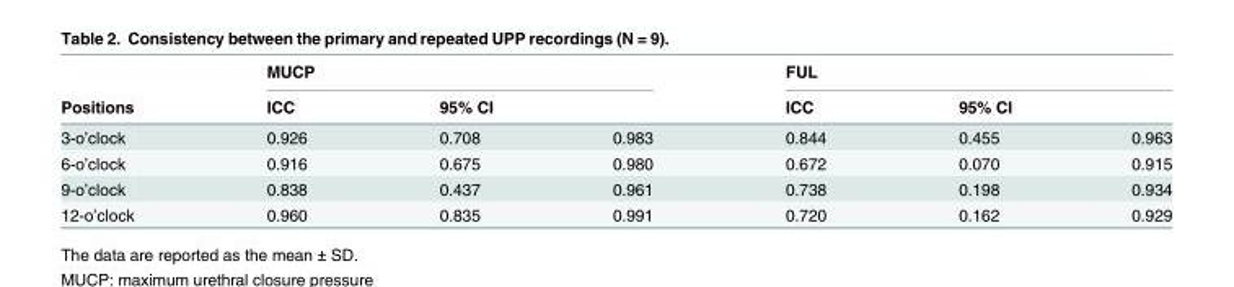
<table><thead><tr><td rowspan="3">Positions 3-o’clock</td><td colspan="3">MUCP</td><td colspan="3">FUL</td></tr><tr><td rowspan="2">ICC 0.926</td><td colspan="2">95% CI</td><td rowspan="2">ICC 0.844</td><td colspan="2">95% CI</td></tr><tr><td>0.708</td><td>0.983</td><td>0.455</td><td>0.963</td></tr></thead><tbody><tr><td>6-o’clock</td><td>0.916</td><td>0.675</td><td>0.980</td><td>0.672</td><td>0.070</td><td>0.915</td></tr><tr><td>9-o’clock</td><td>0.838</td><td>0.437</td><td>0.961</td><td>0.738</td><td>0.198</td><td>0.934</td></tr><tr><td>12-o’clock</td><td>0.960</td><td>0.835</td><td>0.991</td><td>0.720</td><td>0.162</td><td>0.929</td></tr></tbody></table>